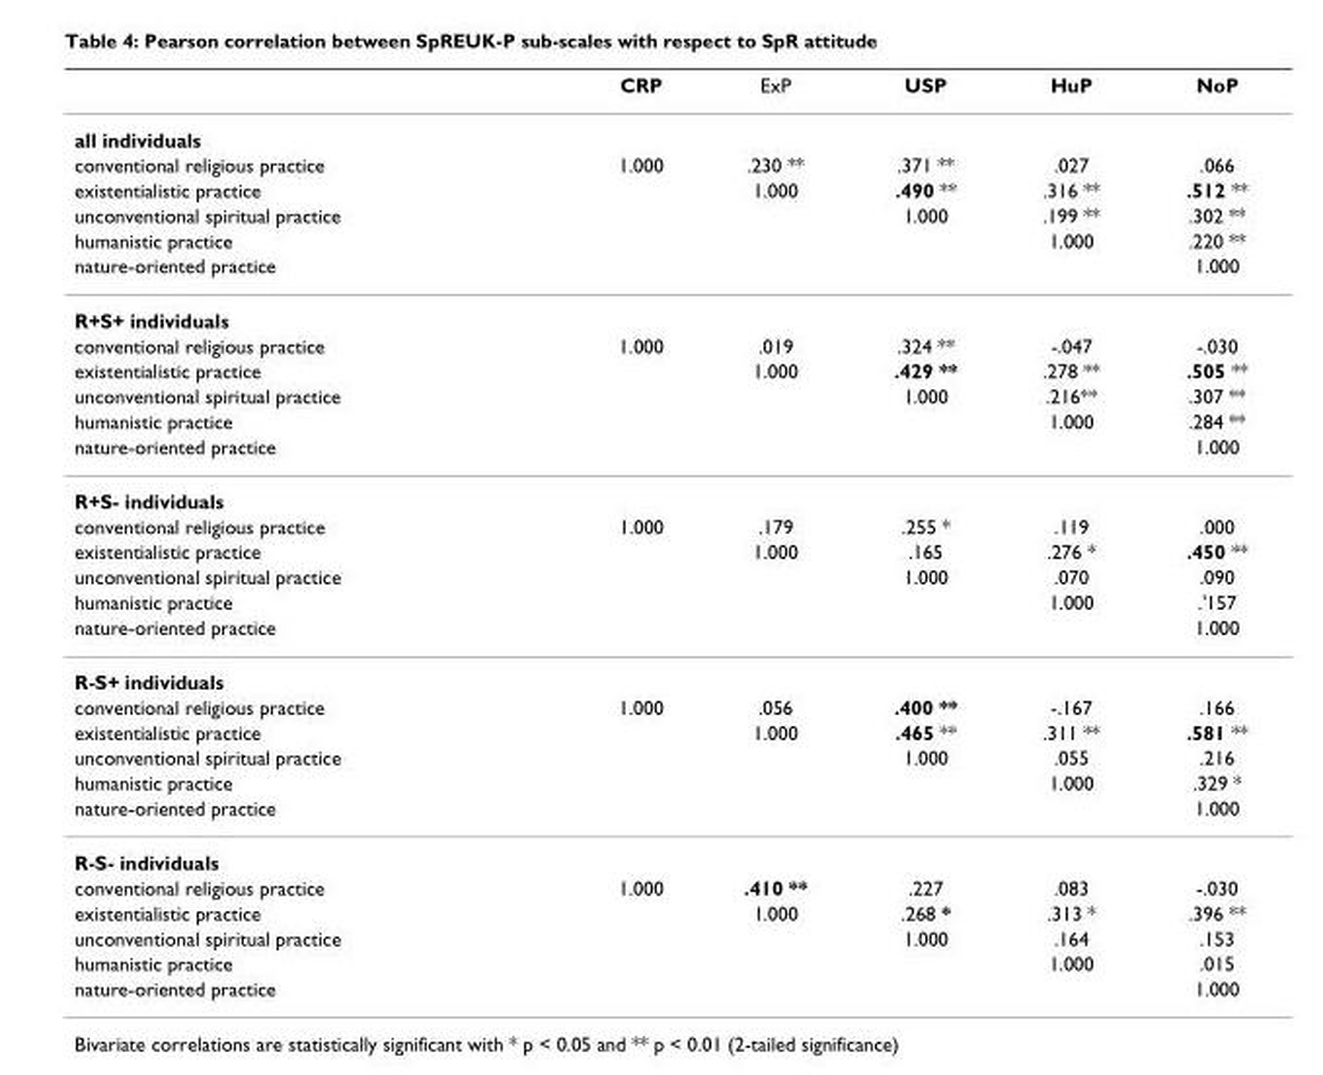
<table><thead><tr><td></td><td>CRP</td><td>ExP</td><td>USP</td><td>HuP</td><td>NoP</td></tr></thead><tbody><tr><td colspan="6">all individuals</td></tr><tr><td>conventional religious practice</td><td>1.000</td><td>.230 **</td><td>.371 **</td><td>.027</td><td>.066</td></tr><tr><td>existentialistic practice</td><td></td><td>1.000</td><td>.490 **</td><td>.316 **</td><td>.512 **</td></tr><tr><td>unconventional spiritual practice</td><td></td><td></td><td>1.000</td><td>.199 **</td><td>.302 **</td></tr><tr><td>humanistic practice</td><td></td><td></td><td></td><td>1.000</td><td>.220 **</td></tr><tr><td>nature-oriented practice</td><td></td><td></td><td></td><td></td><td>1.000</td></tr><tr><td colspan="6">R+S+ individuals</td></tr><tr><td>conventional religious practice</td><td>1.000</td><td>.019</td><td>.324 **</td><td>-.047</td><td>-.030</td></tr><tr><td>existentialistic practice</td><td></td><td>1.000</td><td>.429 **</td><td>.278 **</td><td>.505 **</td></tr><tr><td>unconventional spiritual practice</td><td></td><td></td><td>1.000</td><td>.216**</td><td>.307 **</td></tr><tr><td>humanistic practice</td><td></td><td></td><td></td><td>1.000</td><td>.284 **</td></tr><tr><td>nature-oriented practice</td><td></td><td></td><td></td><td></td><td>1.000</td></tr><tr><td colspan="6">R+S- individuals</td></tr><tr><td>conventional religious practice</td><td>1.000</td><td>.179</td><td>.255 *</td><td>.119</td><td>.000</td></tr><tr><td>existentialistic practice</td><td></td><td>1.000</td><td>.165</td><td>.276 *</td><td>.450 **</td></tr><tr><td>unconventional spiritual practice</td><td></td><td></td><td>1.000</td><td>.070</td><td>.090</td></tr><tr><td>humanistic practice</td><td></td><td></td><td></td><td>1.000</td><td>.&#x27;157</td></tr><tr><td>nature-oriented practice</td><td></td><td></td><td></td><td></td><td>1.000</td></tr><tr><td colspan="6">R-S+ individuals</td></tr><tr><td>conventional religious practice</td><td>1.000</td><td>.056</td><td>.400 **</td><td>-.167</td><td>.166</td></tr><tr><td>existentialistic practice</td><td></td><td>1.000</td><td>.465 **</td><td>.311 **</td><td>.581 **</td></tr><tr><td>unconventional spiritual practice</td><td></td><td></td><td>1.000</td><td>.055</td><td>.216</td></tr><tr><td>humanistic practice</td><td></td><td></td><td></td><td>1.000</td><td>.329 *</td></tr><tr><td>nature-oriented practice</td><td></td><td></td><td></td><td></td><td>1.000</td></tr><tr><td colspan="6">R-S- individuals</td></tr><tr><td>conventional religious practice</td><td>1.000</td><td>.410 **</td><td>.227</td><td>.083</td><td>-.030</td></tr><tr><td>existentialistic practice</td><td></td><td>1.000</td><td>.268 *</td><td>.313 *</td><td>.396 **</td></tr><tr><td>unconventional spiritual practice</td><td></td><td></td><td>1.000</td><td>.164</td><td>.153</td></tr><tr><td>humanistic practice</td><td></td><td></td><td></td><td>1.000</td><td>.015</td></tr><tr><td>nature-oriented practice</td><td></td><td></td><td></td><td></td><td>1.000</td></tr></tbody></table>